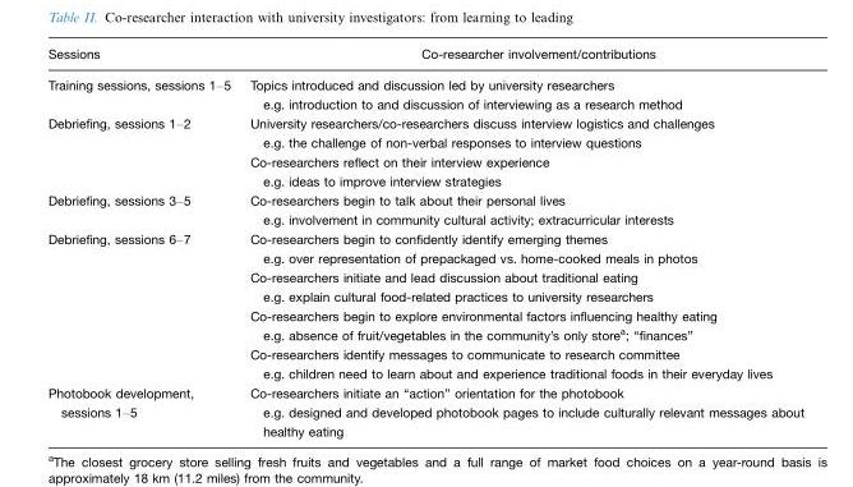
<table><thead><tr><td>Sessions</td><td>Co-researcher involvement/contributions</td></tr></thead><tbody><tr><td>Training sessions, sessions 1–5</td><td>Topics introduced and discussion led by university researchers e.g. introduction to and discussion of interviewing as a research method</td></tr><tr><td>Debriefing, sessions 1–2</td><td>University researchers/co-researchers discuss interview logistics and challenges e.g. the challenge of non-verbal responses to interview questions Co-researchers reflect on their interview experience e.g. ideas to improve interview strategies</td></tr><tr><td>Debriefing, sessions 3–5</td><td>Co-researchers begin to talk about their personal lives e.g. involvement in community cultural activity; extracurricular interests</td></tr><tr><td>Debriefing, sessions 6–7</td><td>Co-researchers begin to confidently identify emerging themes e.g. over representation of prepackaged vs. home-cooked meals in photos Co-researchers initiate and lead discussion about traditional eating e.g. explain cultural food-related practices to university researchers Co-researchers begin to explore environmental factors influencing healthy eating e.g. absence of fruit/vegetables in the community’s only storea; ‘‘finances’’ Co-researchers identify messages to communicate to research committee e.g. children need to learn about and experience traditional foods in their everyday lives</td></tr><tr><td>Photobook development, sessions 1–5</td><td>Co-researchers initiate an ‘‘action’’ orientation for the photobook e.g. designed and developed photobook pages to include culturally relevant messages about healthy eating</td></tr></tbody></table>